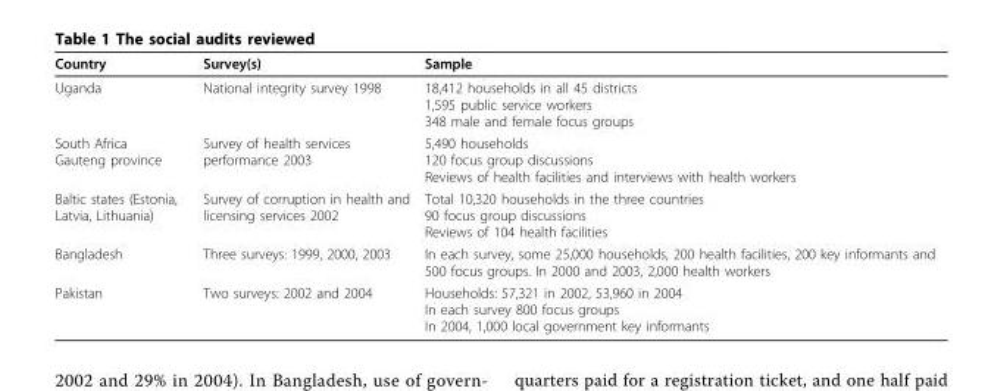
<table><thead><tr><td>Country</td><td>Survey(s)</td><td>Sample</td></tr></thead><tbody><tr><td>Uganda</td><td>National integrity survey 1998</td><td>18,412 households in all 45 districts 1,595 public service workers 348 male and female focus groups</td></tr><tr><td>South Africa Gauteng province</td><td>Survey of health services performance 2003</td><td>5,490 households 120 focus group discussions Reviews of health facilities and interviews with health workers</td></tr><tr><td>Baltic states (Estonia, Latvia, Lithuania)</td><td>Survey of corruption in health and licensing services 2002</td><td>Total 10,320 households in the three countries 90 focus group discussions Reviews of 104 health facilities</td></tr><tr><td>Bangladesh</td><td>Three surveys: 1999, 2000, 2003</td><td>In each survey, some 25,000 households, 200 health facilities, 200 key informants and 500 focus groups. In 2000 and 2003, 2,000 health workers</td></tr><tr><td>Pakistan</td><td>Two surveys: 2002 and 2004</td><td>Households: 57,321 in 2002, 53,960 in 2004 In each survey 800 focus groups In 2004, 1,000 local government key informants</td></tr></tbody></table>